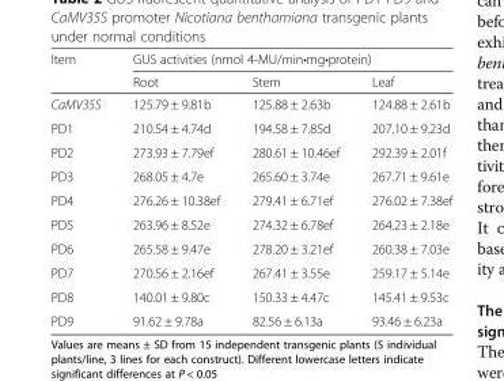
<table><thead><tr><td rowspan="2">Item</td><td colspan="3">GUS activities (nmol 4-MU/min•mg•protein)</td></tr><tr><td>Root</td><td>Stem</td><td>Leaf</td></tr></thead><tbody><tr><td>CaMV35S</td><td>125.79 ± 9.81b</td><td>125.88 ± 2.63b</td><td>124.88 ± 2.61b</td></tr><tr><td>PD1</td><td>210.54 ± 4.74d</td><td>194.58 ± 7.85d</td><td>207.10 ± 9.23d</td></tr><tr><td>PD2</td><td>273.93 ± 7.79ef</td><td>280.61 ± 10.46ef</td><td>292.39 ± 2.01f</td></tr><tr><td>PD3</td><td>268.05 ± 4.7e</td><td>265.60 ± 3.74e</td><td>267.71 ± 9.61e</td></tr><tr><td>PD4</td><td>276.26 ± 10.38ef</td><td>279.41 ± 6.71ef</td><td>276.02 ± 7.38ef</td></tr><tr><td>PD5</td><td>263.96 ± 8.52e</td><td>274.32 ± 6.78ef</td><td>264.23 ± 2.18e</td></tr><tr><td>PD6</td><td>265.58 ± 9.47e</td><td>278.20 ± 3.21ef</td><td>260.38 ± 7.03e</td></tr><tr><td>PD7</td><td>270.56 ± 2.16ef</td><td>267.41 ± 3.55e</td><td>259.17 ± 5.14e</td></tr><tr><td>PD8</td><td>140.01 ± 9.80c</td><td>150.33 ± 4.47c</td><td>145.41 ± 9.53c</td></tr><tr><td>PD9</td><td>91.62 ± 9.78a</td><td>82.56 ± 6.13a</td><td>93.46 ± 6.23a</td></tr></tbody></table>